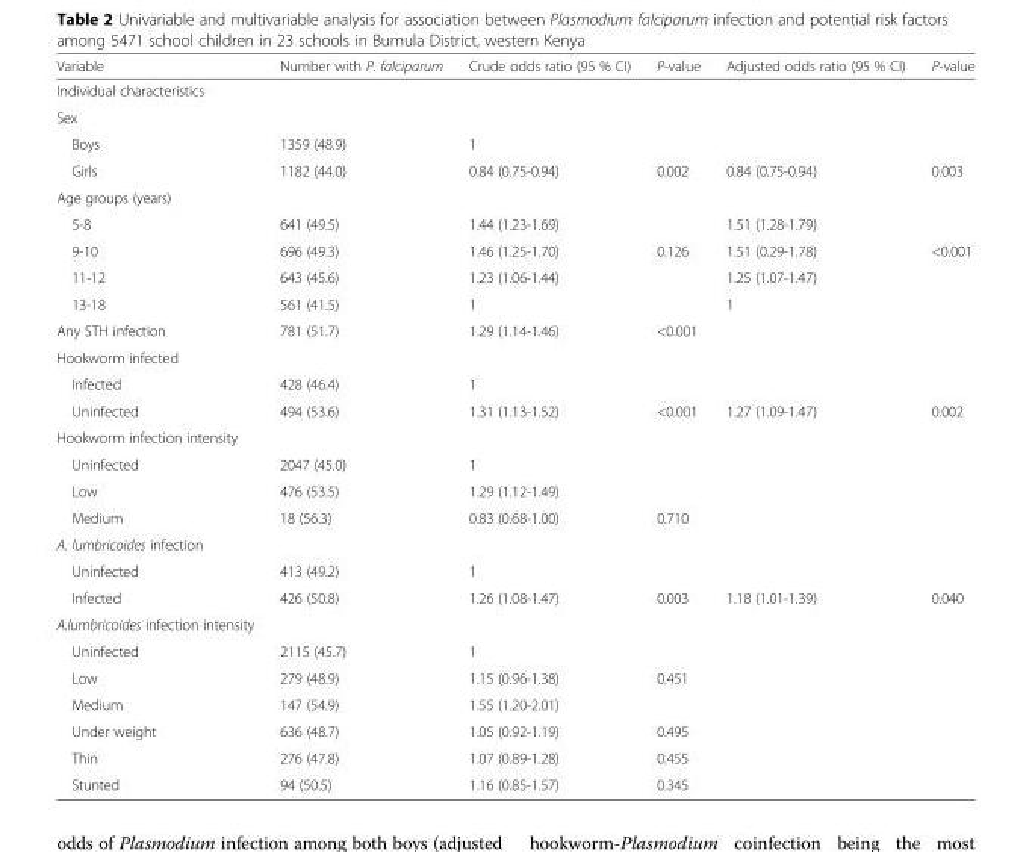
<table><thead><tr><td>Variable</td><td>Number with P. falciparum</td><td>Crude odds ratio (95 % CI)</td><td>P-value</td><td>Adjusted odds ratio (95 % CI)</td><td>P-value</td></tr></thead><tbody><tr><td colspan="6">Individual characteristics</td></tr><tr><td colspan="6">Sex</td></tr><tr><td>Boys</td><td>1359 (48.9)</td><td>1</td><td></td><td></td><td></td></tr><tr><td>Girls</td><td>1182 (44.0)</td><td>0.84 (0.75-0.94)</td><td>0.002</td><td>0.84 (0.75-0.94)</td><td>0.003</td></tr><tr><td colspan="6">Age groups (years)</td></tr><tr><td>5-8</td><td>641 (49.5)</td><td>1.44 (1.23-1.69)</td><td></td><td>1.51 (1.28-1.79)</td><td></td></tr><tr><td>9-10</td><td>696 (49.3)</td><td>1.46 (1.25-1.70)</td><td>0.126</td><td>1.51 (0.29-1.78)</td><td>&lt;0.001</td></tr><tr><td>11-12</td><td>643 (45.6)</td><td>1.23 (1.06-1.44)</td><td></td><td>1.25 (1.07-1.47)</td><td></td></tr><tr><td>13-18</td><td>561 (41.5)</td><td>1</td><td></td><td>1</td><td></td></tr><tr><td>Any STH infection</td><td>781 (51.7)</td><td>1.29 (1.14-1.46)</td><td>&lt;0.001</td><td></td><td></td></tr><tr><td colspan="6">Hookworm infected</td></tr><tr><td>Infected</td><td>428 (46.4)</td><td>1</td><td></td><td></td><td></td></tr><tr><td>Uninfected</td><td>494 (53.6)</td><td>1.31 (1.13-1.52)</td><td>&lt;0.001</td><td>1.27 (1.09-1.47)</td><td>0.002</td></tr><tr><td colspan="6">Hookworm infection intensity</td></tr><tr><td>Uninfected</td><td>2047 (45.0)</td><td>1</td><td></td><td></td><td></td></tr><tr><td>Low</td><td>476 (53.5)</td><td>1.29 (1.12-1.49)</td><td></td><td></td><td></td></tr><tr><td>Medium</td><td>18 (56.3)</td><td>0.83 (0.68-1.00)</td><td>0.710</td><td></td><td></td></tr><tr><td colspan="6">A. lumbricoides infection</td></tr><tr><td>Uninfected</td><td>413 (49.2)</td><td>1</td><td></td><td></td><td></td></tr><tr><td>Infected</td><td>426 (50.8)</td><td>1.26 (1.08-1.47)</td><td>0.003</td><td>1.18 (1.01-1.39)</td><td>0.040</td></tr><tr><td colspan="6">A.lumbricoides infection intensity</td></tr><tr><td>Uninfected</td><td>2115 (45.7)</td><td>1</td><td></td><td></td><td></td></tr><tr><td>Low</td><td>279 (48.9)</td><td>1.15 (0.96-1.38)</td><td>0.451</td><td></td><td></td></tr><tr><td>Medium</td><td>147 (54.9)</td><td>1.55 (1.20-2.01)</td><td></td><td></td><td></td></tr><tr><td>Under weight</td><td>636 (48.7)</td><td>1.05 (0.92-1.19)</td><td>0.495</td><td></td><td></td></tr><tr><td>Thin</td><td>276 (47.8)</td><td>1.07 (0.89-1.28)</td><td>0.455</td><td></td><td></td></tr><tr><td>Stunted</td><td>94 (50.5)</td><td>1.16 (0.85-1.57)</td><td>0.345</td><td></td><td></td></tr></tbody></table>